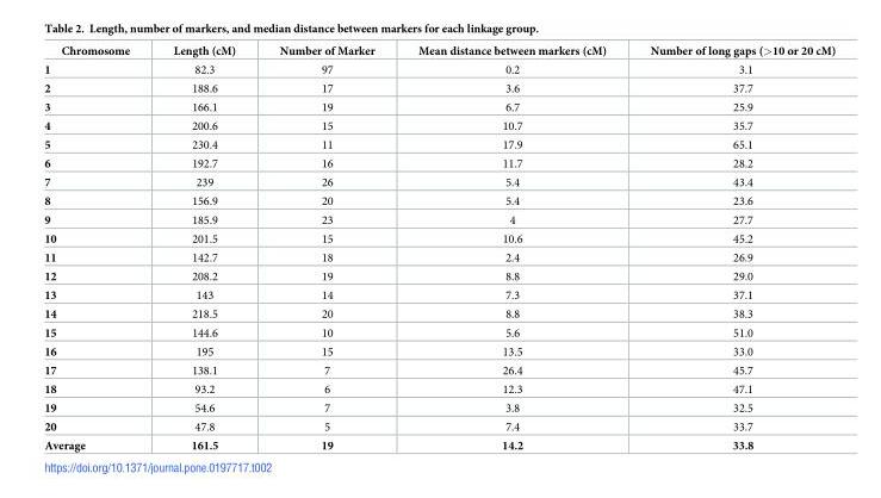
<table><thead><tr><td>Chromosome</td><td>Length (cM)</td><td>Number of Marker</td><td>Mean distance between markers (cM)</td><td>Number of long gaps (&gt;10 or 20 cM)</td></tr></thead><tbody><tr><td>1</td><td>82.3</td><td>97</td><td>0.2</td><td>3.1</td></tr><tr><td>2</td><td>188.6</td><td>17</td><td>3.6</td><td>37.7</td></tr><tr><td>3</td><td>166.1</td><td>19</td><td>6.7</td><td>25.9</td></tr><tr><td>4</td><td>200.6</td><td>15</td><td>10.7</td><td>35.7</td></tr><tr><td>5</td><td>230.4</td><td>11</td><td>17.9</td><td>65.1</td></tr><tr><td>6</td><td>192.7</td><td>16</td><td>11.7</td><td>28.2</td></tr><tr><td>7</td><td>239</td><td>26</td><td>5.4</td><td>43.4</td></tr><tr><td>8</td><td>156.9</td><td>20</td><td>5.4</td><td>23.6</td></tr><tr><td>9</td><td>185.9</td><td>23</td><td>4</td><td>27.7</td></tr><tr><td>10</td><td>201.5</td><td>15</td><td>10.6</td><td>45.2</td></tr><tr><td>11</td><td>142.7</td><td>18</td><td>2.4</td><td>26.9</td></tr><tr><td>12</td><td>208.2</td><td>19</td><td>8.8</td><td>29.0</td></tr><tr><td>13</td><td>143</td><td>14</td><td>7.3</td><td>37.1</td></tr><tr><td>14</td><td>218.5</td><td>20</td><td>8.8</td><td>38.3</td></tr><tr><td>15</td><td>144.6</td><td>10</td><td>5.6</td><td>51.0</td></tr><tr><td>16</td><td>195</td><td>15</td><td>13.5</td><td>33.0</td></tr><tr><td>17</td><td>138.1</td><td>7</td><td>26.4</td><td>45.7</td></tr><tr><td>18</td><td>93.2</td><td>6</td><td>12.3</td><td>47.1</td></tr><tr><td>19</td><td>54.6</td><td>7</td><td>3.8</td><td>32.5</td></tr><tr><td>20</td><td>47.8</td><td>5</td><td>7.4</td><td>33.7</td></tr><tr><td>Average</td><td>161.5</td><td>19</td><td>14.2</td><td>33.8</td></tr></tbody></table>